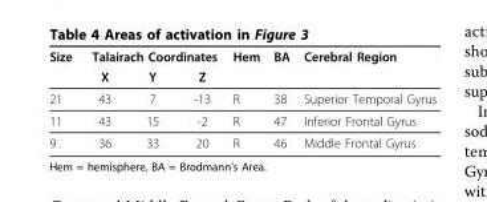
<table><thead><tr><td rowspan="2">Size</td><td colspan="3">Talairach Coordinates</td><td rowspan="2">Hem</td><td rowspan="2">BA</td><td rowspan="2">Cerebral Region</td></tr><tr><td>X</td><td>Y</td><td>Z</td></tr></thead><tbody><tr><td>21</td><td>43</td><td>7</td><td>-13</td><td>R</td><td>38</td><td>Superior Temporal Gyrus</td></tr><tr><td>11</td><td>43</td><td>15</td><td>-2</td><td>R</td><td>47</td><td>Inferior Frontal Gyrus</td></tr><tr><td>9</td><td>36</td><td>33</td><td>20</td><td>R</td><td>46</td><td>Middle Frontal Gyrus</td></tr></tbody></table>